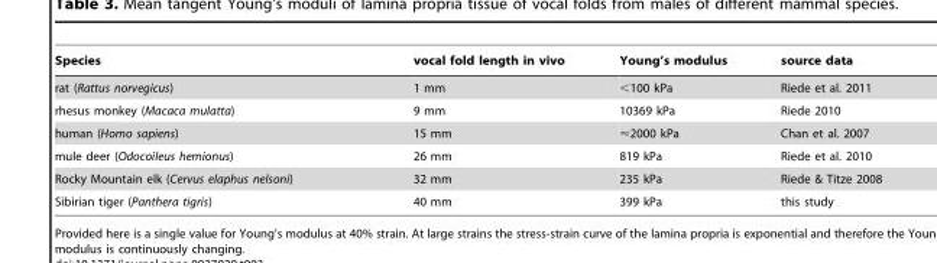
<table><thead><tr><td>Species</td><td>vocal fold length in vivo</td><td>Young’s modulus</td><td>source data</td></tr></thead><tbody><tr><td>rat (Rattus norvegicus)</td><td>1 mm</td><td>&lt;100 kPa</td><td>Riede et al. 2011</td></tr><tr><td>rhesus monkey (Macaca mulatta)</td><td>9 mm</td><td>10369 kPa</td><td>Riede 2010</td></tr><tr><td>human (Homo sapiens)</td><td>15 mm</td><td>&lt;2000 kPa</td><td>Chan et al. 2007</td></tr><tr><td>mule deer (Odocoileus hemionus)</td><td>26 mm</td><td>819 kPa</td><td>Riede et al. 2010</td></tr><tr><td>Rocky Mountain elk (Cervus elaphus nelsoni)</td><td>32 mm</td><td>235 kPa</td><td>Riede &amp; Titze 2008</td></tr><tr><td>Sibirian tiger (Panthera tigris)</td><td>40 mm</td><td>399 kPa</td><td>this study</td></tr></tbody></table>